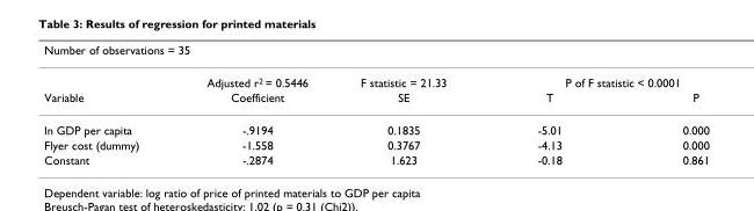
<table><thead><tr><td colspan="5">Number of observations = 35</td></tr><tr><td rowspan="2">Variable</td><td rowspan="2">Adjusted r2 = 0.5446 Coefficient</td><td rowspan="2">F statistic = 21.33 SE</td><td colspan="2">P of F statistic &lt; 0.0001</td></tr><tr><td>T</td><td>P</td></tr></thead><tbody><tr><td>ln GDP per capita</td><td>-.9194</td><td>0.1835</td><td>-5.01</td><td>0.000</td></tr><tr><td>Flyer cost (dummy)</td><td>-1.558</td><td>0.3767</td><td>-4.13</td><td>0.000</td></tr><tr><td>Constant</td><td>-.2874</td><td>1.623</td><td>-0.18</td><td>0.861</td></tr></tbody></table>